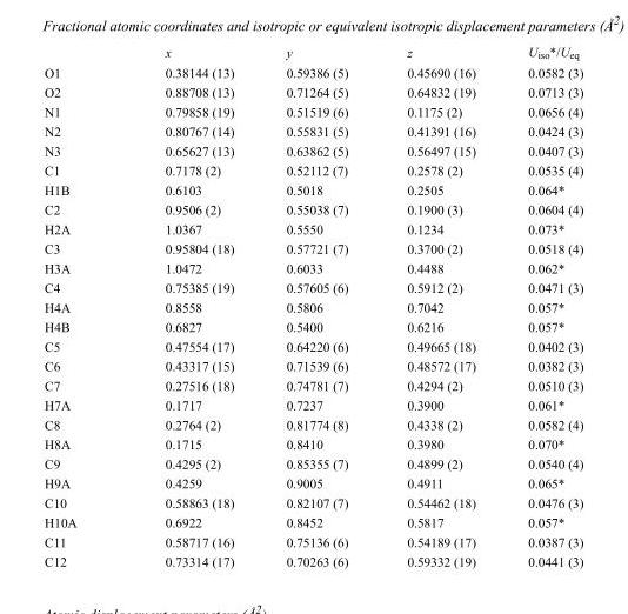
<table><thead><tr><td></td><td>x</td><td>y</td><td>z</td><td>U<sub>iso</sub>*/U<sub>eq</sub></td></tr></thead><tbody><tr><td>O1</td><td>0.38144 (13)</td><td>0.59386 (5)</td><td>0.45690 (16)</td><td>0.0582 (3)</td></tr><tr><td>O2</td><td>0.88708 (13)</td><td>0.71264 (5)</td><td>0.64832 (19)</td><td>0.0713 (3)</td></tr><tr><td>N1</td><td>0.79858 (19)</td><td>0.51519 (6)</td><td>0.1175 (2)</td><td>0.0656 (4)</td></tr><tr><td>N2</td><td>0.80767 (14)</td><td>0.55831 (5)</td><td>0.41391 (16)</td><td>0.0424 (3)</td></tr><tr><td>N3</td><td>0.65627 (13)</td><td>0.63862 (5)</td><td>0.56497 (15)</td><td>0.0407 (3)</td></tr><tr><td>C1</td><td>0.7178 (2)</td><td>0.52112 (7)</td><td>0.2578 (2)</td><td>0.0535 (4)</td></tr><tr><td>H1B</td><td>0.6103</td><td>0.5018</td><td>0.2505</td><td>0.064*</td></tr><tr><td>C2</td><td>0.9506 (2)</td><td>0.55038 (7)</td><td>0.1900 (3)</td><td>0.0604 (4)</td></tr><tr><td>H2A</td><td>1.0367</td><td>0.5550</td><td>0.1234</td><td>0.073*</td></tr><tr><td>C3</td><td>0.95804 (18)</td><td>0.57721 (7)</td><td>0.3700 (2)</td><td>0.0518 (4)</td></tr><tr><td>H3A</td><td>1.0472</td><td>0.6033</td><td>0.4488</td><td>0.062*</td></tr><tr><td>C4</td><td>0.75385 (19)</td><td>0.57605 (6)</td><td>0.5912 (2)</td><td>0.0471 (3)</td></tr><tr><td>H4A</td><td>0.8558</td><td>0.5806</td><td>0.7042</td><td>0.057*</td></tr><tr><td>H4B</td><td>0.6827</td><td>0.5400</td><td>0.6216</td><td>0.057*</td></tr><tr><td>C5</td><td>0.47554 (17)</td><td>0.64220 (6)</td><td>0.49665 (18)</td><td>0.0402 (3)</td></tr><tr><td>C6</td><td>0.43317 (15)</td><td>0.71539 (6)</td><td>0.48572 (17)</td><td>0.0382 (3)</td></tr><tr><td>C7</td><td>0.27516 (18)</td><td>0.74781 (7)</td><td>0.4294 (2)</td><td>0.0510 (3)</td></tr><tr><td>H7A</td><td>0.1717</td><td>0.7237</td><td>0.3900</td><td>0.061*</td></tr><tr><td>C8</td><td>0.2764 (2)</td><td>0.81774 (8)</td><td>0.4338 (2)</td><td>0.0582 (4)</td></tr><tr><td>H8A</td><td>0.1715</td><td>0.8410</td><td>0.3980</td><td>0.070*</td></tr><tr><td>C9</td><td>0.4295 (2)</td><td>0.85355 (7)</td><td>0.4899 (2)</td><td>0.0540 (4)</td></tr><tr><td>H9A</td><td>0.4259</td><td>0.9005</td><td>0.4911</td><td>0.065*</td></tr><tr><td>C10</td><td>0.58863 (18)</td><td>0.82107 (7)</td><td>0.54462 (18)</td><td>0.0476 (3)</td></tr><tr><td>H10A</td><td>0.6922</td><td>0.8452</td><td>0.5817</td><td>0.057*</td></tr><tr><td>C11</td><td>0.58717 (16)</td><td>0.75136 (6)</td><td>0.54189 (17)</td><td>0.0387 (3)</td></tr><tr><td>C12</td><td>0.73314 (17)</td><td>0.70263 (6)</td><td>0.59332 (19)</td><td>0.0441 (3)</td></tr></tbody></table>